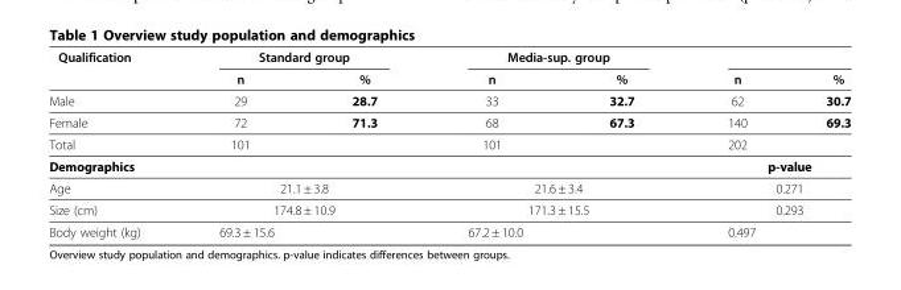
<table><thead><tr><td rowspan="2">Qualification</td><td colspan="2">Standard group</td><td colspan="2">Media-sup. group</td><td rowspan="2">n</td><td rowspan="2">%</td></tr><tr><td>n</td><td>%</td><td>n</td><td>%</td></tr></thead><tbody><tr><td>Male</td><td>29</td><td>28.7</td><td>33</td><td>32.7</td><td>62</td><td>30.7</td></tr><tr><td>Female</td><td>72</td><td>71.3</td><td>68</td><td>67.3</td><td>140</td><td>69.3</td></tr><tr><td>Total</td><td>101</td><td></td><td>101</td><td></td><td>202</td><td></td></tr><tr><td>Demographics</td><td colspan="2"></td><td colspan="2"></td><td colspan="2">p-value</td></tr><tr><td>Age</td><td colspan="2">21.1 ± 3.8</td><td colspan="2">21.6 ± 3.4</td><td colspan="2">0.271</td></tr><tr><td>Size (cm)</td><td colspan="2">174.8 ± 10.9</td><td colspan="2">171.3 ± 15.5</td><td colspan="2">0.293</td></tr><tr><td>Body weight (kg)</td><td>69.3 ± 15.6</td><td></td><td>67.2 ± 10.0</td><td></td><td>0.497</td><td></td></tr></tbody></table>